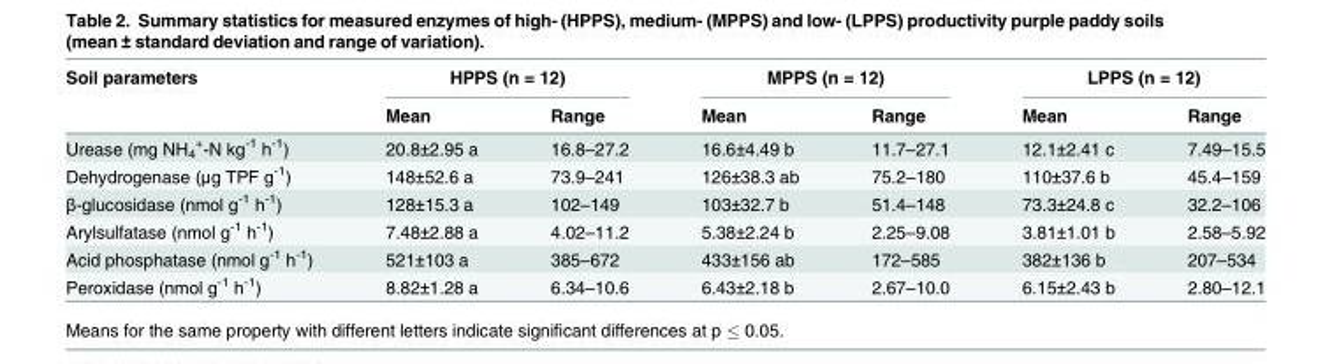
<table><thead><tr><td rowspan="2">Soil parameters</td><td colspan="2">HPPS (n = 12)</td><td colspan="2">MPPS (n = 12)</td><td colspan="2">LPPS (n = 12)</td></tr><tr><td>Mean</td><td>Range</td><td>Mean</td><td>Range</td><td>Mean</td><td>Range</td></tr></thead><tbody><tr><td>Urease (mg NH<sub>4</sub> <sup>+</sup>-N kg<sup>-1</sup> h<sup>-1</sup>)</td><td>20.8±2.95 a</td><td>16.8–27.2</td><td>16.6±4.49 b</td><td>11.7–27.1</td><td>12.1±2.41 c</td><td>7.49–15.5</td></tr><tr><td>Dehydrogenase (μg TPF g<sup>-1</sup>)</td><td>148±52.6 a</td><td>73.9–241</td><td>126±38.3 ab</td><td>75.2–180</td><td>110±37.6 b</td><td>45.4–159</td></tr><tr><td>β-glucosidase (nmol g<sup>-1</sup> h<sup>-1</sup>)</td><td>128±15.3 a</td><td>102–149</td><td>103±32.7 b</td><td>51.4–148</td><td>73.3±24.8 c</td><td>32.2–106</td></tr><tr><td>Arylsulfatase (nmol g<sup>-1</sup> h<sup>-1</sup>)</td><td>7.48±2.88 a</td><td>4.02–11.2</td><td>5.38±2.24 b</td><td>2.25–9.08</td><td>3.81±1.01 b</td><td>2.58–5.92</td></tr><tr><td>Acid phosphatase (nmol g<sup>-1</sup> h<sup>-1</sup>)</td><td>521±103 a</td><td>385–672</td><td>433±156 ab</td><td>172–585</td><td>382±136 b</td><td>207–534</td></tr><tr><td>Peroxidase (nmol g<sup>-1</sup> h<sup>-1</sup>)</td><td>8.82±1.28 a</td><td>6.34–10.6</td><td>6.43±2.18 b</td><td>2.67–10.0</td><td>6.15±2.43 b</td><td>2.80–12.1</td></tr></tbody></table>